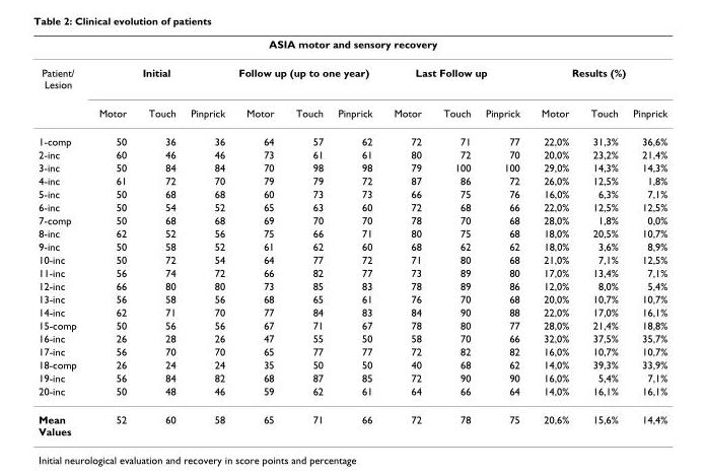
<table><thead><tr><td colspan="13">ASIA motor and sensory recovery</td></tr><tr><td rowspan="2">Patient/ Lesion</td><td colspan="3">Initial</td><td colspan="3">Follow up (up to one year)</td><td colspan="3">Last Follow up</td><td colspan="3">Results (%)</td></tr><tr><td>Motor</td><td>Touch</td><td>Pinprick</td><td>Motor</td><td>Touch</td><td>Pinprick</td><td>Motor</td><td>Touch</td><td>Pinprick</td><td>Motor</td><td>Touch</td><td>Pinprick</td></tr></thead><tbody><tr><td>1-comp</td><td>50</td><td>36</td><td>36</td><td>64</td><td>57</td><td>62</td><td>72</td><td>71</td><td>77</td><td>22,0%</td><td>31,3%</td><td>36,6%</td></tr><tr><td>2-inc</td><td>60</td><td>46</td><td>46</td><td>73</td><td>61</td><td>61</td><td>80</td><td>72</td><td>70</td><td>20,0%</td><td>23,2%</td><td>21,4%</td></tr><tr><td>3-inc</td><td>50</td><td>84</td><td>84</td><td>70</td><td>98</td><td>98</td><td>79</td><td>100</td><td>100</td><td>29,0%</td><td>14,3%</td><td>14,3%</td></tr><tr><td>4-inc</td><td>61</td><td>72</td><td>70</td><td>79</td><td>79</td><td>72</td><td>87</td><td>86</td><td>72</td><td>26,0%</td><td>12,5%</td><td>1,8%</td></tr><tr><td>5-inc</td><td>50</td><td>68</td><td>68</td><td>60</td><td>73</td><td>73</td><td>66</td><td>75</td><td>76</td><td>16,0%</td><td>6,3%</td><td>7,1%</td></tr><tr><td>6-inc</td><td>50</td><td>54</td><td>52</td><td>65</td><td>63</td><td>60</td><td>72</td><td>68</td><td>66</td><td>22,0%</td><td>12,5%</td><td>12,5%</td></tr><tr><td>7-comp</td><td>50</td><td>68</td><td>68</td><td>69</td><td>70</td><td>70</td><td>78</td><td>70</td><td>68</td><td>28,0%</td><td>1,8%</td><td>0,0%</td></tr><tr><td>8-inc</td><td>62</td><td>52</td><td>56</td><td>75</td><td>66</td><td>71</td><td>80</td><td>75</td><td>68</td><td>18,0%</td><td>20,5%</td><td>10,7%</td></tr><tr><td>9-inc</td><td>50</td><td>58</td><td>52</td><td>61</td><td>62</td><td>60</td><td>68</td><td>62</td><td>62</td><td>18,0%</td><td>3,6%</td><td>8,9%</td></tr><tr><td>10-inc</td><td>50</td><td>72</td><td>54</td><td>64</td><td>77</td><td>72</td><td>71</td><td>80</td><td>68</td><td>21,0%</td><td>7,1%</td><td>12,5%</td></tr><tr><td>11-inc</td><td>56</td><td>74</td><td>72</td><td>66</td><td>82</td><td>77</td><td>73</td><td>89</td><td>80</td><td>17,0%</td><td>13,4%</td><td>7,1%</td></tr><tr><td>12-inc</td><td>66</td><td>80</td><td>80</td><td>73</td><td>85</td><td>83</td><td>78</td><td>89</td><td>86</td><td>12,0%</td><td>8,0%</td><td>5,4%</td></tr><tr><td>13-inc</td><td>56</td><td>58</td><td>56</td><td>68</td><td>65</td><td>61</td><td>76</td><td>70</td><td>68</td><td>20,0%</td><td>10,7%</td><td>10,7%</td></tr><tr><td>14-inc</td><td>62</td><td>71</td><td>70</td><td>77</td><td>84</td><td>83</td><td>84</td><td>90</td><td>88</td><td>22,0%</td><td>17,0%</td><td>16,1%</td></tr><tr><td>15-comp</td><td>50</td><td>56</td><td>56</td><td>67</td><td>71</td><td>67</td><td>78</td><td>80</td><td>77</td><td>28,0%</td><td>21,4%</td><td>18,8%</td></tr><tr><td>16-inc</td><td>26</td><td>28</td><td>26</td><td>47</td><td>55</td><td>50</td><td>58</td><td>70</td><td>66</td><td>32,0%</td><td>37,5%</td><td>35,7%</td></tr><tr><td>17-inc</td><td>56</td><td>70</td><td>70</td><td>65</td><td>77</td><td>77</td><td>72</td><td>82</td><td>82</td><td>16,0%</td><td>10,7%</td><td>10,7%</td></tr><tr><td>18-comp</td><td>26</td><td>24</td><td>24</td><td>35</td><td>50</td><td>50</td><td>40</td><td>68</td><td>62</td><td>14,0%</td><td>39,3%</td><td>33,9%</td></tr><tr><td>19-inc</td><td>56</td><td>84</td><td>82</td><td>68</td><td>87</td><td>85</td><td>72</td><td>90</td><td>90</td><td>16,0%</td><td>5,4%</td><td>7,1%</td></tr><tr><td>20-inc</td><td>50</td><td>48</td><td>46</td><td>59</td><td>62</td><td>61</td><td>64</td><td>66</td><td>64</td><td>14,0%</td><td>16,1%</td><td>16,1%</td></tr><tr><td>Mean Values</td><td>52</td><td>60</td><td>58</td><td>65</td><td>71</td><td>66</td><td>72</td><td>78</td><td>75</td><td>20,6%</td><td>15,6%</td><td>14,4%</td></tr></tbody></table>